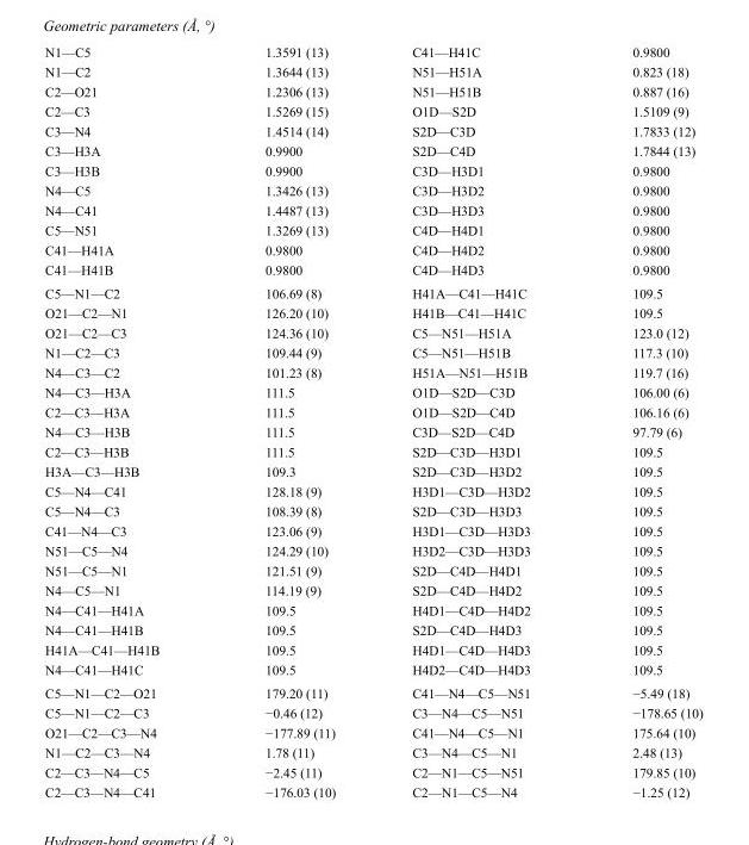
<table><tbody><tr><td>N1—C5</td><td>1.3591 (13)</td><td>C41—H41C</td><td>0.9800</td></tr><tr><td>N1—C2</td><td>1.3644 (13)</td><td>N51—H51A</td><td>0.823 (18)</td></tr><tr><td>C2—O21</td><td>1.2306 (13)</td><td>N51—H51B</td><td>0.887 (16)</td></tr><tr><td>C2—C3</td><td>1.5269 (15)</td><td>O1D—S2D</td><td>1.5109 (9)</td></tr><tr><td>C3—N4</td><td>1.4514 (14)</td><td>S2D—C3D</td><td>1.7833 (12)</td></tr><tr><td>C3—H3A</td><td>0.9900</td><td>S2D—C4D</td><td>1.7844 (13)</td></tr><tr><td>C3—H3B</td><td>0.9900</td><td>C3D—H3D1</td><td>0.9800</td></tr><tr><td>N4—C5</td><td>1.3426 (13)</td><td>C3D—H3D2</td><td>0.9800</td></tr><tr><td>N4—C41</td><td>1.4487 (13)</td><td>C3D—H3D3</td><td>0.9800</td></tr><tr><td>C5—N51</td><td>1.3269 (13)</td><td>C4D—H4D1</td><td>0.9800</td></tr><tr><td>C41—H41A</td><td>0.9800</td><td>C4D—H4D2</td><td>0.9800</td></tr><tr><td>C41—H41B</td><td>0.9800</td><td>C4D—H4D3</td><td>0.9800</td></tr><tr><td>C5—N1—C2</td><td>106.69 (8)</td><td>H41A—C41—H41C</td><td>109.5</td></tr><tr><td>O21—C2—N1</td><td>126.20 (10)</td><td>H41B—C41—H41C</td><td>109.5</td></tr><tr><td>O21—C2—C3</td><td>124.36 (10)</td><td>C5—N51—H51A</td><td>123.0 (12)</td></tr><tr><td>N1—C2—C3</td><td>109.44 (9)</td><td>C5—N51—H51B</td><td>117.3 (10)</td></tr><tr><td>N4—C3—C2</td><td>101.23 (8)</td><td>H51A—N51—H51B</td><td>119.7 (16)</td></tr><tr><td>N4—C3—H3A</td><td>111.5</td><td>O1D—S2D—C3D</td><td>106.00 (6)</td></tr><tr><td>C2—C3—H3A</td><td>111.5</td><td>O1D—S2D—C4D</td><td>106.16 (6)</td></tr><tr><td>N4—C3—H3B</td><td>111.5</td><td>C3D—S2D—C4D</td><td>97.79 (6)</td></tr><tr><td>C2—C3—H3B</td><td>111.5</td><td>S2D—C3D—H3D1</td><td>109.5</td></tr><tr><td>H3A—C3—H3B</td><td>109.3</td><td>S2D—C3D—H3D2</td><td>109.5</td></tr><tr><td>C5—N4—C41</td><td>128.18 (9)</td><td>H3D1—C3D—H3D2</td><td>109.5</td></tr><tr><td>C5—N4—C3</td><td>108.39 (8)</td><td>S2D—C3D—H3D3</td><td>109.5</td></tr><tr><td>C41—N4—C3</td><td>123.06 (9)</td><td>H3D1—C3D—H3D3</td><td>109.5</td></tr><tr><td>N51—C5—N4</td><td>124.29 (10)</td><td>H3D2—C3D—H3D3</td><td>109.5</td></tr><tr><td>N51—C5—N1</td><td>121.51 (9)</td><td>S2D—C4D—H4D1</td><td>109.5</td></tr><tr><td>N4—C5—N1</td><td>114.19 (9)</td><td>S2D—C4D—H4D2</td><td>109.5</td></tr><tr><td>N4—C41—H41A</td><td>109.5</td><td>H4D1—C4D—H4D2</td><td>109.5</td></tr><tr><td>N4—C41—H41B</td><td>109.5</td><td>S2D—C4D—H4D3</td><td>109.5</td></tr><tr><td>H41A—C41—H41B</td><td>109.5</td><td>H4D1—C4D—H4D3</td><td>109.5</td></tr><tr><td>N4—C41—H41C</td><td>109.5</td><td>H4D2—C4D—H4D3</td><td>109.5</td></tr><tr><td>C5—N1—C2—O21</td><td>179.20 (11)</td><td>C41—N4—C5—N51</td><td>−5.49 (18)</td></tr><tr><td>C5—N1—C2—C3</td><td>−0.46 (12)</td><td>C3—N4—C5—N51</td><td>−178.65 (10)</td></tr><tr><td>O21—C2—C3—N4</td><td>−177.89 (11)</td><td>C41—N4—C5—N1</td><td>175.64 (10)</td></tr><tr><td>N1—C2—C3—N4</td><td>1.78 (11)</td><td>C3—N4—C5—N1</td><td>2.48 (13)</td></tr><tr><td>C2—C3—N4—C5</td><td>−2.45 (11)</td><td>C2—N1—C5—N51</td><td>179.85 (10)</td></tr><tr><td>C2—C3—N4—C41</td><td>−176.03 (10)</td><td>C2—N1—C5—N4</td><td>−1.25 (12)</td></tr></tbody></table>